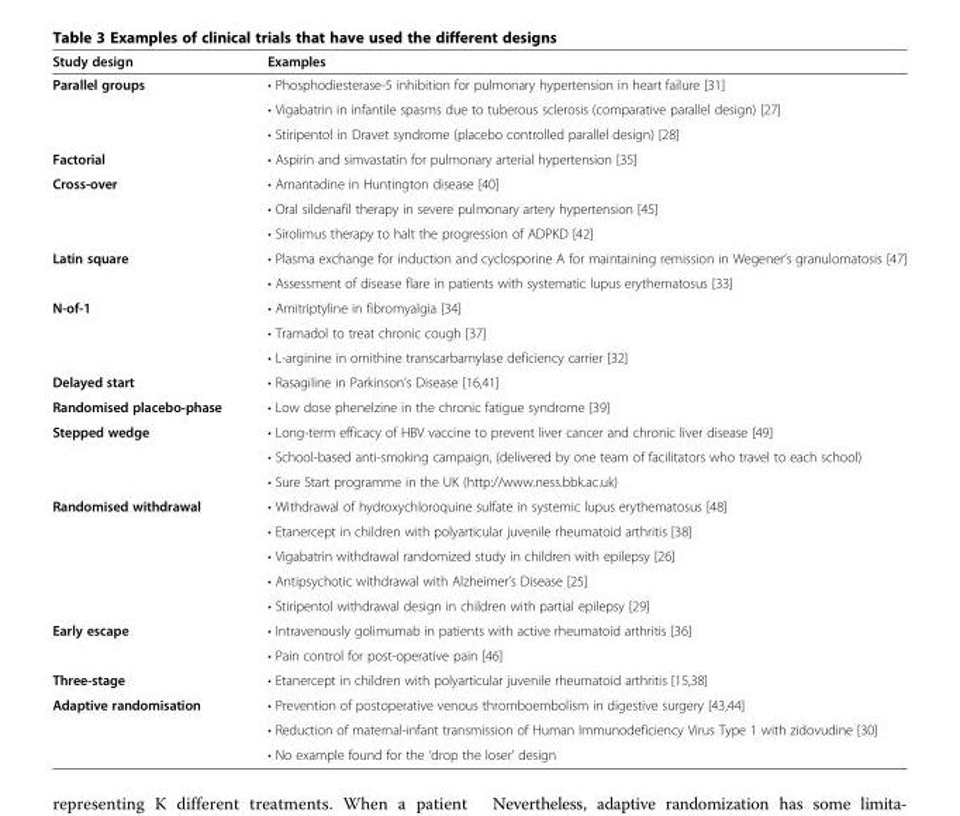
<table><thead><tr><td>Study design</td><td>Examples</td></tr></thead><tbody><tr><td rowspan="3">Parallel groups</td><td>• Phosphodiesterase-5 inhibition for pulmonary hypertension in heart failure [31]</td></tr><tr><td>• Vigabatrin in infantile spasms due to tuberous sclerosis (comparative parallel design) [27]</td></tr><tr><td>• Stiripentol in Dravet syndrome (placebo controlled parallel design) [28]</td></tr><tr><td>Factorial</td><td>• Aspirin and simvastatin for pulmonary arterial hypertension [35]</td></tr><tr><td rowspan="3">Cross-over</td><td>• Amantadine in Huntington disease [40]</td></tr><tr><td>• Oral sildenafil therapy in severe pulmonary artery hypertension [45]</td></tr><tr><td>• Sirolimus therapy to halt the progression of ADPKD [42]</td></tr><tr><td rowspan="2">Latin square</td><td>• Plasma exchange for induction and cyclosporine A for maintaining remission in Wegener’s granulomatosis [47]</td></tr><tr><td>• Assessment of disease flare in patients with systematic lupus erythematosus [33]</td></tr><tr><td rowspan="3">N-of-1</td><td>• Amitriptyline in fibromyalgia [34]</td></tr><tr><td>• Tramadol to treat chronic cough [37]</td></tr><tr><td>• L-arginine in ornithine transcarbamylase deficiency carrier [32]</td></tr><tr><td>Delayed start</td><td>• Rasagiline in Parkinson’s Disease [16,41]</td></tr><tr><td>Randomised placebo-phase</td><td>• Low dose phenelzine in the chronic fatigue syndrome [39]</td></tr><tr><td rowspan="3">Stepped wedge</td><td>• Long-term efficacy of HBV vaccine to prevent liver cancer and chronic liver disease [49]</td></tr><tr><td>• School-based anti-smoking campaign, (delivered by one team of facilitators who travel to each school)</td></tr><tr><td>• Sure Start programme in the UK (http://www.ness.bbk.ac.uk)</td></tr><tr><td rowspan="5">Randomised withdrawal</td><td>• Withdrawal of hydroxychloroquine sulfate in systemic lupus erythematosus [48]</td></tr><tr><td>• Etanercept in children with polyarticular juvenile rheumatoid arthritis [38]</td></tr><tr><td>• Vigabatrin withdrawal randomized study in children with epilepsy [26]</td></tr><tr><td>• Antipsychotic withdrawal with Alzheimer’s Disease [25]</td></tr><tr><td>• Stiripentol withdrawal design in children with partial epilepsy [29]</td></tr><tr><td rowspan="2">Early escape</td><td>• Intravenously golimumab in patients with active rheumatoid arthritis [36]</td></tr><tr><td>• Pain control for post-operative pain [46]</td></tr><tr><td>Three-stage</td><td>• Etanercept in children with polyarticular juvenile rheumatoid arthritis [15,38]</td></tr><tr><td rowspan="3">Adaptive randomisation</td><td>• Prevention of postoperative venous thromboembolism in digestive surgery [43,44]</td></tr><tr><td>• Reduction of maternal-infant transmission of Human Immunodeficiency Virus Type 1 with zidovudine [30]</td></tr><tr><td>• No example found for the ‘drop the loser’ design</td></tr></tbody></table>